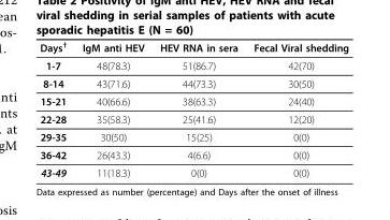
<table><thead><tr><td>Days<sup>†</sup></td><td>IgM anti HEV</td><td>HEV RNA in sera</td><td>Fecal Viral shedding</td></tr></thead><tbody><tr><td>1-7</td><td>48(78.3)</td><td>51(86.7)</td><td>42(70)</td></tr><tr><td>8-14</td><td>43(71.6)</td><td>44(73.3)</td><td>30(50)</td></tr><tr><td>15-21</td><td>40(66.6)</td><td>38(63.3)</td><td>24(40)</td></tr><tr><td>22-28</td><td>35(58.3)</td><td>25(41.6)</td><td>12(20)</td></tr><tr><td>29-35</td><td>30(50)</td><td>15(25)</td><td>0(0)</td></tr><tr><td>36-42</td><td>26(43.3)</td><td>4(6.6)</td><td>0(0)</td></tr><tr><td>43-49</td><td>11(18.3)</td><td>0(0)</td><td>0(0)</td></tr></tbody></table>